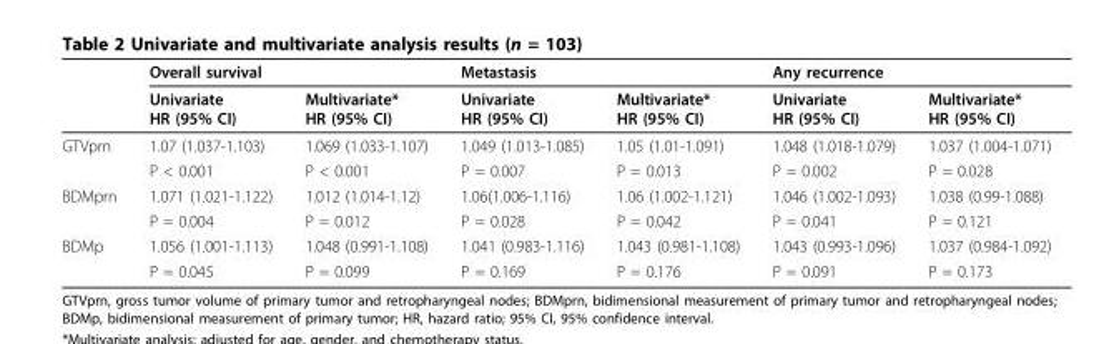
<table><thead><tr><td rowspan="2"></td><td colspan="2">Overall survival</td><td colspan="2">Metastasis</td><td colspan="2">Any recurrence</td></tr><tr><td>Univariate HR (95% CI)</td><td>Multivariate* HR (95% CI)</td><td>Univariate HR (95% CI)</td><td>Multivariate* HR (95% CI)</td><td>Univariate HR (95% CI)</td><td>Multivariate* HR (95% CI)</td></tr></thead><tbody><tr><td rowspan="2">GTVprn</td><td>1.07 (1.037-1.103)</td><td>1.069 (1.033-1.107)</td><td>1.049 (1.013-1.085)</td><td>1.05 (1.01-1.091)</td><td>1.048 (1.018-1.079)</td><td>1.037 (1.004-1.071)</td></tr><tr><td>P &lt; 0.001</td><td>P &lt; 0.001</td><td>P = 0.007</td><td>P = 0.013</td><td>P = 0.002</td><td>P = 0.028</td></tr><tr><td rowspan="2">BDMprn</td><td>1.071 (1.021-1.122)</td><td>1.012 (1.014-1.12)</td><td>1.06(1.006-1.116)</td><td>1.06 (1.002-1.121)</td><td>1.046 (1.002-1.093)</td><td>1.038 (0.99-1.088)</td></tr><tr><td>P = 0.004</td><td>P = 0.012</td><td>P = 0.028</td><td>P = 0.042</td><td>P = 0.041</td><td>P = 0.121</td></tr><tr><td rowspan="2">BDMp</td><td>1.056 (1.001-1.113)</td><td>1.048 (0.991-1.108)</td><td>1.041 (0.983-1.116)</td><td>1.043 (0.981-1.108)</td><td>1.043 (0.993-1.096)</td><td>1.037 (0.984-1.092)</td></tr><tr><td>P = 0.045</td><td>P = 0.099</td><td>P = 0.169</td><td>P = 0.176</td><td>P = 0.091</td><td>P = 0.173</td></tr></tbody></table>